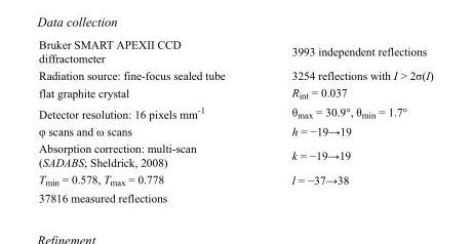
<table><tbody><tr><td>Bruker SMART APEXII CCD diffractometer</td><td>3993 independent reflections</td></tr><tr><td>Radiation source: fine-focus sealed tube</td><td>3254 reflections with I &gt; 2σ(I)</td></tr><tr><td>flat graphite crystal</td><td>R<sub>int</sub> = 0.037</td></tr><tr><td>Detector resolution: 16 pixels mm<sup>-1</sup></td><td>θ<sub>max</sub> = 30.9°, θ<sub>min</sub> = 1.7°</td></tr><tr><td>φ scans and ω scans</td><td>h = −19→19</td></tr><tr><td>Absorption correction: multi-scan (SADABS; Sheldrick, 2008)</td><td>k = −19→19</td></tr><tr><td>T<sub>min</sub> = 0.578, T<sub>max</sub> = 0.778</td><td>l = −37→38</td></tr><tr><td>37816 measured reflections</td><td></td></tr></tbody></table>